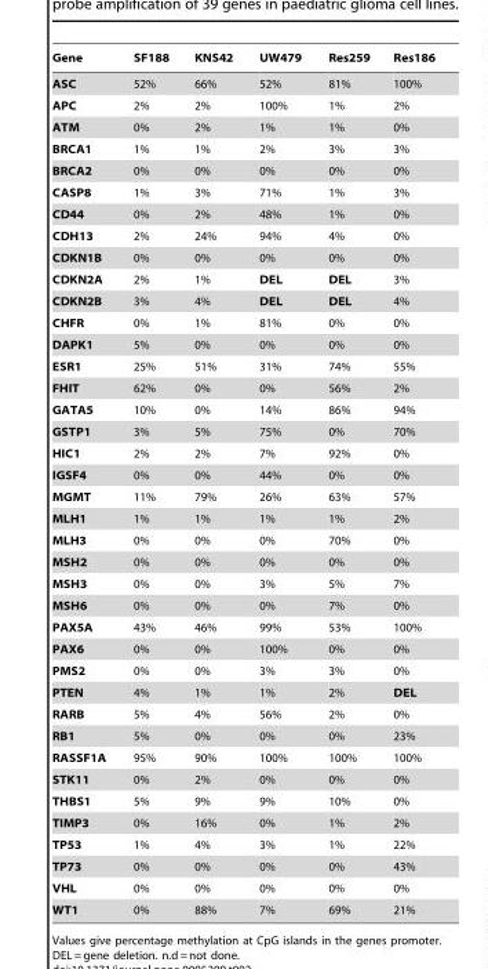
<table><thead><tr><td>Gene</td><td>SF188</td><td>KNS42</td><td>UW479</td><td>Res259</td><td>Res186</td></tr></thead><tbody><tr><td>ASC</td><td>52%</td><td>66%</td><td>52%</td><td>81%</td><td>100%</td></tr><tr><td>APC</td><td>2%</td><td>2%</td><td>100%</td><td>1%</td><td>2%</td></tr><tr><td>ATM</td><td>0%</td><td>2%</td><td>1%</td><td>1%</td><td>0%</td></tr><tr><td>BRCA1</td><td>1%</td><td>1%</td><td>2%</td><td>3%</td><td>3%</td></tr><tr><td>BRCA2</td><td>0%</td><td>0%</td><td>0%</td><td>0%</td><td>0%</td></tr><tr><td>CASP8</td><td>1%</td><td>3%</td><td>71%</td><td>1%</td><td>3%</td></tr><tr><td>CD44</td><td>0%</td><td>2%</td><td>48%</td><td>1%</td><td>0%</td></tr><tr><td>CDH13</td><td>2%</td><td>24%</td><td>94%</td><td>4%</td><td>0%</td></tr><tr><td>CDKN1B</td><td>0%</td><td>0%</td><td>0%</td><td>0%</td><td>0%</td></tr><tr><td>CDKN2A</td><td>2%</td><td>1%</td><td>DEL</td><td>DEL</td><td>3%</td></tr><tr><td>CDKN2B</td><td>3%</td><td>4%</td><td>DEL</td><td>DEL</td><td>4%</td></tr><tr><td>CHFR</td><td>0%</td><td>1%</td><td>81%</td><td>0%</td><td>0%</td></tr><tr><td>DAPK1</td><td>5%</td><td>0%</td><td>0%</td><td>0%</td><td>0%</td></tr><tr><td>ESR1</td><td>25%</td><td>51%</td><td>31%</td><td>74%</td><td>55%</td></tr><tr><td>FHIT</td><td>62%</td><td>0%</td><td>0%</td><td>56%</td><td>2%</td></tr><tr><td>GATA5</td><td>10%</td><td>0%</td><td>14%</td><td>86%</td><td>94%</td></tr><tr><td>GSTP1</td><td>3%</td><td>5%</td><td>75%</td><td>0%</td><td>70%</td></tr><tr><td>HIC1</td><td>2%</td><td>2%</td><td>7%</td><td>92%</td><td>0%</td></tr><tr><td>IGSF4</td><td>0%</td><td>0%</td><td>44%</td><td>0%</td><td>0%</td></tr><tr><td>MGMT</td><td>11%</td><td>79%</td><td>26%</td><td>63%</td><td>57%</td></tr><tr><td>MLH1</td><td>1%</td><td>1%</td><td>1%</td><td>1%</td><td>2%</td></tr><tr><td>MLH3</td><td>0%</td><td>0%</td><td>0%</td><td>70%</td><td>0%</td></tr><tr><td>MSH2</td><td>0%</td><td>0%</td><td>0%</td><td>0%</td><td>0%</td></tr><tr><td>MSH3</td><td>0%</td><td>0%</td><td>3%</td><td>5%</td><td>7%</td></tr><tr><td>MSH6</td><td>0%</td><td>0%</td><td>0%</td><td>7%</td><td>0%</td></tr><tr><td>PAX5A</td><td>43%</td><td>46%</td><td>99%</td><td>53%</td><td>100%</td></tr><tr><td>PAX6</td><td>0%</td><td>0%</td><td>100%</td><td>0%</td><td>0%</td></tr><tr><td>PMS2</td><td>0%</td><td>0%</td><td>3%</td><td>3%</td><td>0%</td></tr><tr><td>PTEN</td><td>4%</td><td>1%</td><td>1%</td><td>2%</td><td>DEL</td></tr><tr><td>RARB</td><td>5%</td><td>4%</td><td>56%</td><td>2%</td><td>0%</td></tr><tr><td>RB1</td><td>5%</td><td>0%</td><td>0%</td><td>0%</td><td>23%</td></tr><tr><td>RASSF1A</td><td>95%</td><td>90%</td><td>100%</td><td>100%</td><td>100%</td></tr><tr><td>STK11</td><td>0%</td><td>2%</td><td>0%</td><td>0%</td><td>0%</td></tr><tr><td>THBS1</td><td>5%</td><td>9%</td><td>9%</td><td>10%</td><td>0%</td></tr><tr><td>TIMP3</td><td>0%</td><td>16%</td><td>0%</td><td>1%</td><td>2%</td></tr><tr><td>TP53</td><td>1%</td><td>4%</td><td>3%</td><td>1%</td><td>22%</td></tr><tr><td>TP73</td><td>0%</td><td>0%</td><td>0%</td><td>0%</td><td>43%</td></tr><tr><td>VHL</td><td>0%</td><td>0%</td><td>0%</td><td>0%</td><td>0%</td></tr><tr><td>WT1</td><td>0%</td><td>88%</td><td>7%</td><td>69%</td><td>21%</td></tr></tbody></table>